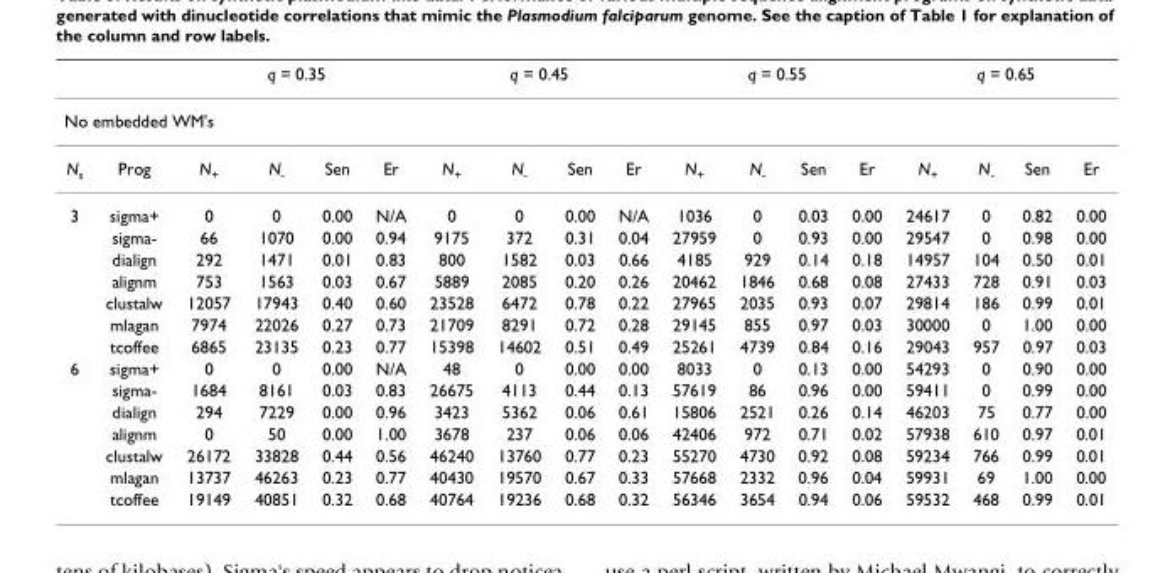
<table><thead><tr><td></td><td></td><td colspan="4">q = 0.35</td><td colspan="4">q = 0.45</td><td colspan="4">q = 0.55</td><td colspan="4">q = 0.65</td></tr><tr><td colspan="18">No embedded WM&#x27;s</td></tr><tr><td>N<sub>s</sub></td><td>Prog</td><td>N<sub>+</sub></td><td>N<sub>-</sub></td><td>Sen</td><td>Er</td><td>N<sub>+</sub></td><td>N<sub>-</sub></td><td>Sen</td><td>Er</td><td>N<sub>+</sub></td><td>N<sub>-</sub></td><td>Sen</td><td>Er</td><td>N<sub>+</sub></td><td>N<sub>-</sub></td><td>Sen</td><td>Er</td></tr></thead><tbody><tr><td rowspan="7">3</td><td>sigma+</td><td>0</td><td>0</td><td>0.00</td><td>N/A</td><td>0</td><td>0</td><td>0.00</td><td>N/A</td><td>1036</td><td>0</td><td>0.03</td><td>0.00</td><td>24617</td><td>0</td><td>0.82</td><td>0.00</td></tr><tr><td>sigma-</td><td>66</td><td>1070</td><td>0.00</td><td>0.94</td><td>9175</td><td>372</td><td>0.31</td><td>0.04</td><td>27959</td><td>0</td><td>0.93</td><td>0.00</td><td>29547</td><td>0</td><td>0.98</td><td>0.00</td></tr><tr><td>dialign</td><td>292</td><td>1471</td><td>0.01</td><td>0.83</td><td>800</td><td>1582</td><td>0.03</td><td>0.66</td><td>4185</td><td>929</td><td>0.14</td><td>0.18</td><td>14957</td><td>104</td><td>0.50</td><td>0.01</td></tr><tr><td>alignm</td><td>753</td><td>1563</td><td>0.03</td><td>0.67</td><td>5889</td><td>2085</td><td>0.20</td><td>0.26</td><td>20462</td><td>1846</td><td>0.68</td><td>0.08</td><td>27433</td><td>728</td><td>0.91</td><td>0.03</td></tr><tr><td>clustalw</td><td>12057</td><td>17943</td><td>0.40</td><td>0.60</td><td>23528</td><td>6472</td><td>0.78</td><td>0.22</td><td>27965</td><td>2035</td><td>0.93</td><td>0.07</td><td>29814</td><td>186</td><td>0.99</td><td>0.01</td></tr><tr><td>mlagan</td><td>7974</td><td>22026</td><td>0.27</td><td>0.73</td><td>21709</td><td>8291</td><td>0.72</td><td>0.28</td><td>29145</td><td>855</td><td>0.97</td><td>0.03</td><td>30000</td><td>0</td><td>1.00</td><td>0.00</td></tr><tr><td>tcoffee</td><td>6865</td><td>23135</td><td>0.23</td><td>0.77</td><td>15398</td><td>14602</td><td>0.51</td><td>0.49</td><td>25261</td><td>4739</td><td>0.84</td><td>0.16</td><td>29043</td><td>957</td><td>0.97</td><td>0.03</td></tr><tr><td rowspan="7">6</td><td>sigma+</td><td>0</td><td>0</td><td>0.00</td><td>N/A</td><td>48</td><td>0</td><td>0.00</td><td>0.00</td><td>8033</td><td>0</td><td>0.13</td><td>0.00</td><td>54293</td><td>0</td><td>0.90</td><td>0.00</td></tr><tr><td>sigma-</td><td>1684</td><td>8161</td><td>0.03</td><td>0.83</td><td>26675</td><td>4113</td><td>0.44</td><td>0.13</td><td>57619</td><td>86</td><td>0.96</td><td>0.00</td><td>59411</td><td>0</td><td>0.99</td><td>0.00</td></tr><tr><td>dialign</td><td>294</td><td>7229</td><td>0.00</td><td>0.96</td><td>3423</td><td>5362</td><td>0.06</td><td>0.61</td><td>15806</td><td>2521</td><td>0.26</td><td>0.14</td><td>46203</td><td>75</td><td>0.77</td><td>0.00</td></tr><tr><td>alignm</td><td>0</td><td>50</td><td>0.00</td><td>1.00</td><td>3678</td><td>237</td><td>0.06</td><td>0.06</td><td>42406</td><td>972</td><td>0.71</td><td>0.02</td><td>57938</td><td>610</td><td>0.97</td><td>0.01</td></tr><tr><td>clustalw</td><td>26172</td><td>33828</td><td>0.44</td><td>0.56</td><td>46240</td><td>13760</td><td>0.77</td><td>0.23</td><td>55270</td><td>4730</td><td>0.92</td><td>0.08</td><td>59234</td><td>766</td><td>0.99</td><td>0.01</td></tr><tr><td>mlagan</td><td>13737</td><td>46263</td><td>0.23</td><td>0.77</td><td>40430</td><td>19570</td><td>0.67</td><td>0.33</td><td>57668</td><td>2332</td><td>0.96</td><td>0.04</td><td>59931</td><td>69</td><td>1.00</td><td>0.00</td></tr><tr><td>tcoffee</td><td>19149</td><td>40851</td><td>0.32</td><td>0.68</td><td>40764</td><td>19236</td><td>0.68</td><td>0.32</td><td>56346</td><td>3654</td><td>0.94</td><td>0.06</td><td>59532</td><td>468</td><td>0.99</td><td>0.01</td></tr></tbody></table>